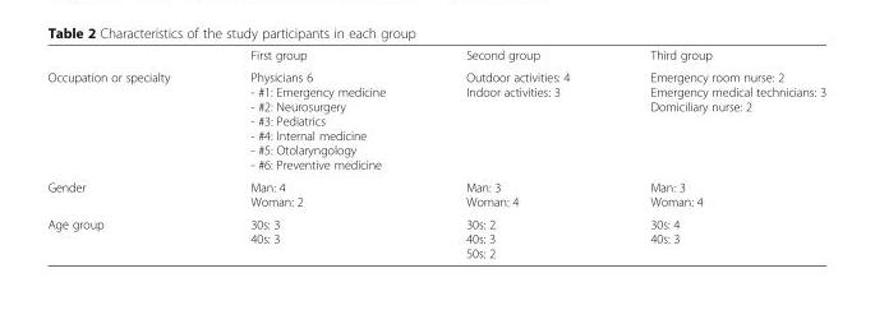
<table><thead><tr><td></td><td>First group</td><td>Second group</td><td>Third group</td></tr></thead><tbody><tr><td>Occupation or specialty</td><td>Physicians 6 - #1: Emergency medicine - #2: Neurosurgery - #3: Pediatrics - #4: Internal medicine - #5: Otolaryngology - #6: Preventive medicine</td><td>Outdoor activities: 4 Indoor activities: 3</td><td>Emergency room nurse: 2 Emergency medical technicians: 3 Domiciliary nurse: 2</td></tr><tr><td>Gender</td><td>Man: 4 Woman: 2</td><td>Man: 3 Woman: 4</td><td>Man: 3 Woman: 4</td></tr><tr><td>Age group</td><td>30s: 3 40s: 3</td><td>30s: 2 40s: 3 50s: 2</td><td>30s: 4 40s: 3</td></tr></tbody></table>